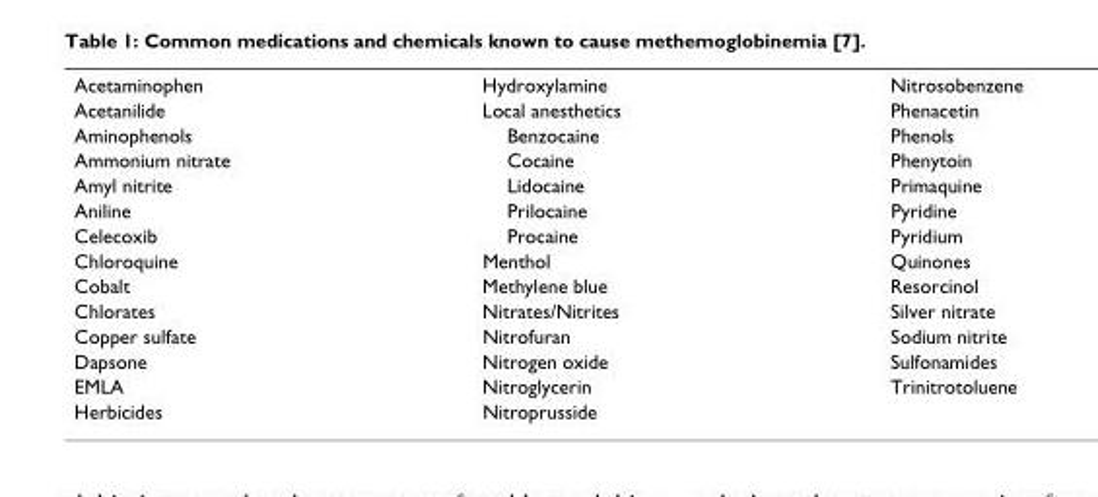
<table><tbody><tr><td>Acetaminophen</td><td>Hydroxylamine</td><td>Nitrosobenzene</td></tr><tr><td>Acetanilide</td><td>Local anesthetics</td><td>Phenacetin</td></tr><tr><td>Aminophenols</td><td>Benzocaine</td><td>Phenols</td></tr><tr><td>Ammonium nitrate</td><td>Cocaine</td><td>Phenytoin</td></tr><tr><td>Amyl nitrite</td><td>Lidocaine</td><td>Primaquine</td></tr><tr><td>Aniline</td><td>Prilocaine</td><td>Pyridine</td></tr><tr><td>Celecoxib</td><td>Procaine</td><td>Pyridium</td></tr><tr><td>Chloroquine</td><td>Menthol</td><td>Quinones</td></tr><tr><td>Cobalt</td><td>Methylene blue</td><td>Resorcinol</td></tr><tr><td>Chlorates</td><td>Nitrates/Nitrites</td><td>Silver nitrate</td></tr><tr><td>Copper sulfate</td><td>Nitrofuran</td><td>Sodium nitrite</td></tr><tr><td>Dapsone</td><td>Nitrogen oxide</td><td>Sulfonamides</td></tr><tr><td>EMLA</td><td>Nitroglycerin</td><td>Trinitrotoluene</td></tr><tr><td>Herbicides</td><td>Nitroprusside</td><td></td></tr></tbody></table>